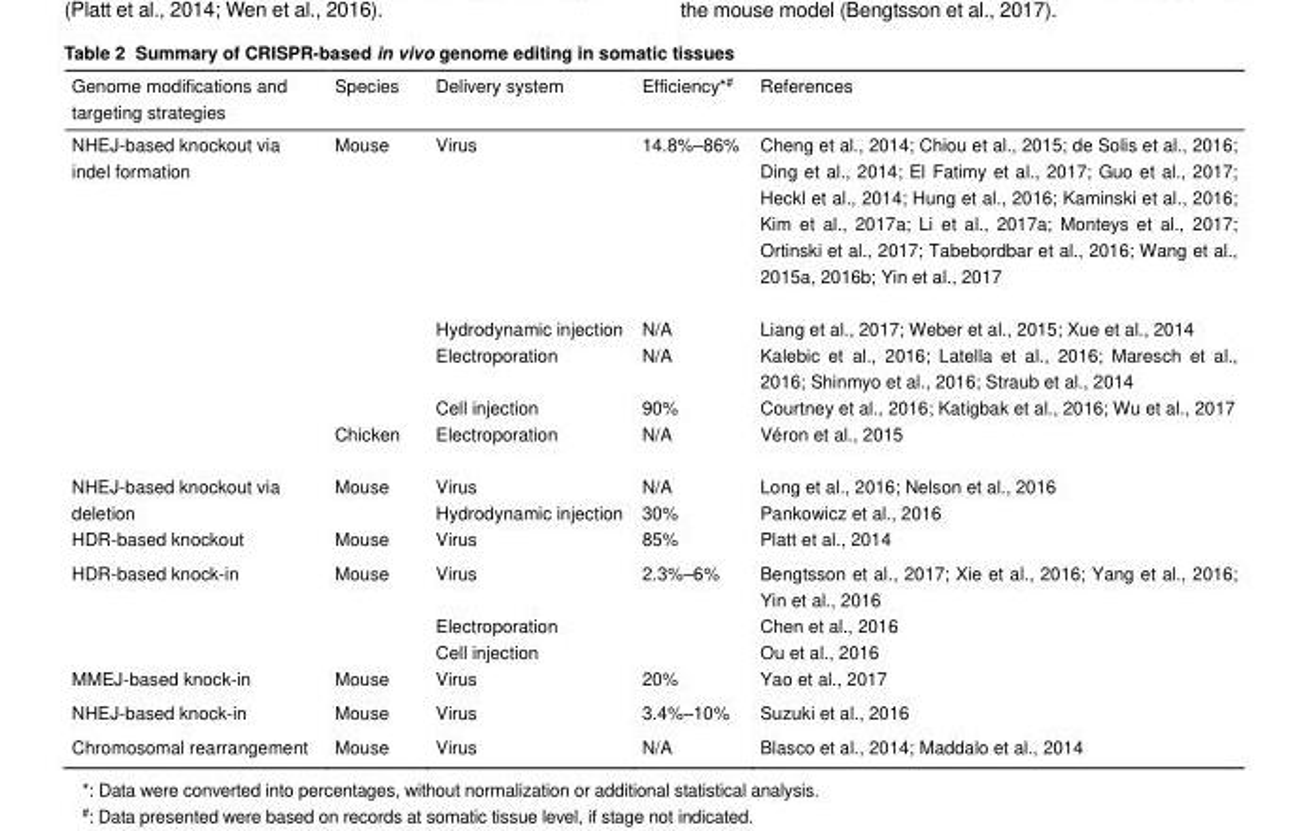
<table><thead><tr><td>Genome modifications and targeting strategies</td><td>Species</td><td>Delivery system</td><td>Efficiency*<sup>#</sup></td><td>References</td></tr></thead><tbody><tr><td rowspan="2">NHEJ-based knockout via indel formation</td><td>Mouse</td><td>Virus Hydrodynamic injection Electroporation Cell injection</td><td>14.8%–86% N/A N/A 90%</td><td>Cheng et al., 2014; Chiou et al., 2015; de Solis et al., 2016; Ding et al., 2014; El Fatimy et al., 2017; Guo et al., 2017; Heckl et al., 2014; Hung et al., 2016; Kaminski et al., 2016; Kim et al., 2017a; Li et al., 2017a; Monteys et al., 2017; Ortinski et al., 2017; Tabebordbar et al., 2016; Wang et al., 2015a, 2016b; Yin et al., 2017 Liang et al., 2017; Weber et al., 2015; Xue et al., 2014 Kalebic et al., 2016; Latella et al., 2016; Maresch et al., 2016; Shinmyo et al., 2016; Straub et al., 2014 Courtney et al., 2016; Katigbak et al., 2016; Wu et al., 2017</td></tr><tr><td>Chicken</td><td>Electroporation</td><td>N/A</td><td>Véron et al., 2015</td></tr><tr><td>NHEJ-based knockout via deletion</td><td>Mouse</td><td>Virus Hydrodynamic injection</td><td>N/A 30%</td><td>Long et al., 2016; Nelson et al., 2016 Pankowicz et al., 2016</td></tr><tr><td>HDR-based knockout</td><td>Mouse</td><td>Virus</td><td>85%</td><td>Platt et al., 2014</td></tr><tr><td>HDR-based knock-in</td><td>Mouse</td><td>Virus Electroporation Cell injection</td><td>2.3%–6%</td><td>Bengtsson et al., 2017; Xie et al., 2016; Yang et al., 2016; Yin et al., 2016 Chen et al., 2016 Ou et al., 2016</td></tr><tr><td>MMEJ-based knock-in</td><td>Mouse</td><td>Virus</td><td>20%</td><td>Yao et al., 2017</td></tr><tr><td>NHEJ-based knock-in</td><td>Mouse</td><td>Virus</td><td>3.4%–10%</td><td>Suzuki et al., 2016</td></tr><tr><td>Chromosomal rearrangement</td><td>Mouse</td><td>Virus</td><td>N/A</td><td>Blasco et al., 2014; Maddalo et al., 2014</td></tr></tbody></table>